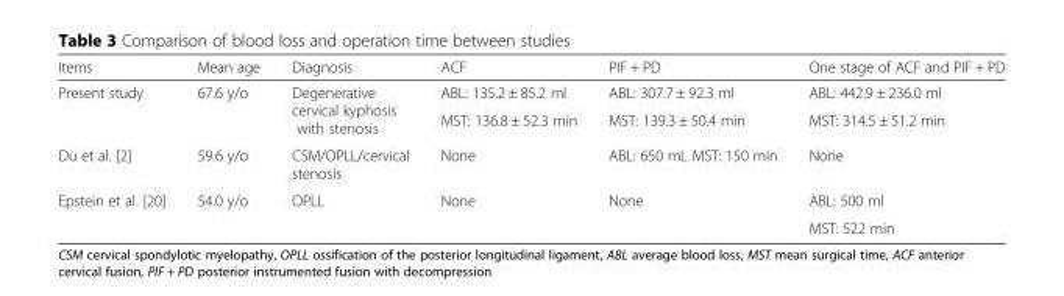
<table><thead><tr><td>Items</td><td>Mean age</td><td>Diagnosis</td><td>ACF</td><td>PIF + PD</td><td>One stage of ACF and PIF + PD</td></tr></thead><tbody><tr><td rowspan="2">Present study</td><td rowspan="2">67.6 y/o</td><td rowspan="2">Degenerative cervical kyphosis with stenosis</td><td>ABL: 135.2 ± 85.2 ml</td><td>ABL: 307.7 ± 92.3 ml</td><td>ABL: 442.9 ± 236.0 ml</td></tr><tr><td>MST: 136.8 ± 52.3 min</td><td>MST: 139.3 ± 50.4 min</td><td>MST: 314.5 ± 51.2 min</td></tr><tr><td>Du et al. [2]</td><td>59.6 y/o</td><td>CSM/OPLL/cervical stenosis</td><td>None</td><td>ABL: 650 mL MST: 150 min</td><td>None</td></tr><tr><td rowspan="2">Epstein et al. [20]</td><td rowspan="2">54.0 y/o</td><td rowspan="2">OPLL</td><td rowspan="2">None</td><td rowspan="2">None</td><td>ABL: 500 ml</td></tr><tr><td>MST: 522 min</td></tr></tbody></table>